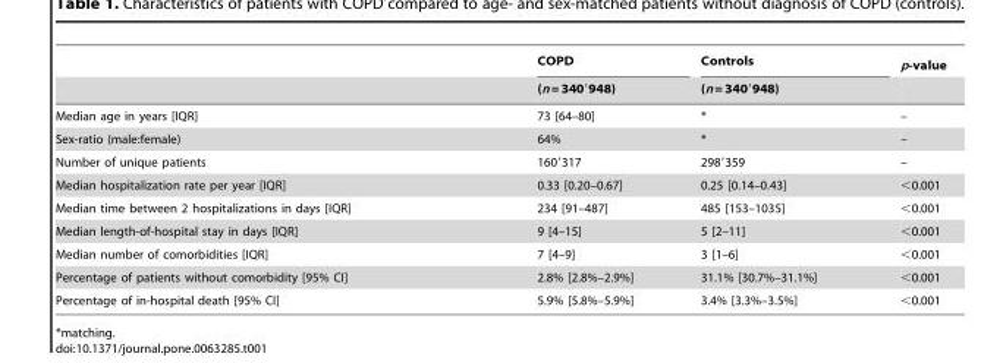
<table><thead><tr><td rowspan="2"></td><td rowspan="2">COPD (n = 340′948)</td><td rowspan="2">Controls (n = 340′948)</td><td rowspan="2">p-value</td></tr><tr></tr></thead><tbody><tr><td>Median age in years [IQR]</td><td>73 [64–80]</td><td>*</td><td>–</td></tr><tr><td>Sex-ratio (male:female)</td><td>64%</td><td>*</td><td>–</td></tr><tr><td>Number of unique patients</td><td>160′317</td><td>298′359</td><td>–</td></tr><tr><td>Median hospitalization rate per year [IQR]</td><td>0.33 [0.20–0.67]</td><td>0.25 [0.14–0.43]</td><td>&lt;0.001</td></tr><tr><td>Median time between 2 hospitalizations in days [IQR]</td><td>234 [91–487]</td><td>485 [153–1035]</td><td>&lt;0.001</td></tr><tr><td>Median length-of-hospital stay in days [IQR]</td><td>9 [4–15]</td><td>5 [2–11]</td><td>&lt;0.001</td></tr><tr><td>Median number of comorbidities [IQR]</td><td>7 [4–9]</td><td>3 [1–6]</td><td>&lt;0.001</td></tr><tr><td>Percentage of patients without comorbidity [95% CI]</td><td>2.8% [2.8%–2.9%]</td><td>31.1% [30.7%–31.1%]</td><td>&lt;0.001</td></tr><tr><td>Percentage of in-hospital death [95% CI]</td><td>5.9% [5.8%–5.9%]</td><td>3.4% [3.3%–3.5%]</td><td>&lt;0.001</td></tr></tbody></table>